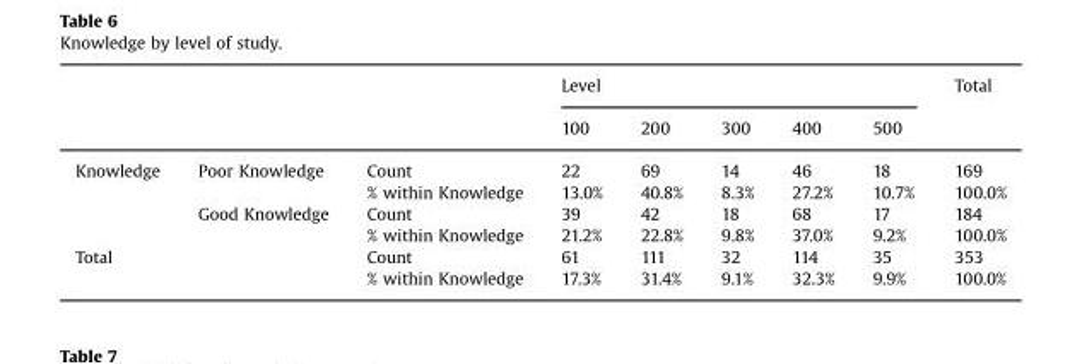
<table><thead><tr><td rowspan="2"></td><td rowspan="2"></td><td rowspan="2"></td><td colspan="5">Level</td><td rowspan="2">Total</td></tr><tr><td>100</td><td>200</td><td>300</td><td>400</td><td>500</td></tr></thead><tbody><tr><td rowspan="4">Knowledge</td><td rowspan="2">Poor Knowledge</td><td>Count</td><td>22</td><td>69</td><td>14</td><td>46</td><td>18</td><td>169</td></tr><tr><td>% within Knowledge</td><td>13.0%</td><td>40.8%</td><td>8.3%</td><td>27.2%</td><td>10.7%</td><td>100.0%</td></tr><tr><td rowspan="2">Good Knowledge</td><td>Count</td><td>39</td><td>42</td><td>18</td><td>68</td><td>17</td><td>184</td></tr><tr><td>% within Knowledge</td><td>21.2%</td><td>22.8%</td><td>9.8%</td><td>37.0%</td><td>9.2%</td><td>100.0%</td></tr><tr><td rowspan="2" colspan="2">Total</td><td>Count</td><td>61</td><td>111</td><td>32</td><td>114</td><td>35</td><td>353</td></tr><tr><td>% within Knowledge</td><td>17.3%</td><td>31.4%</td><td>9.1%</td><td>32.3%</td><td>9.9%</td><td>100.0%</td></tr></tbody></table>